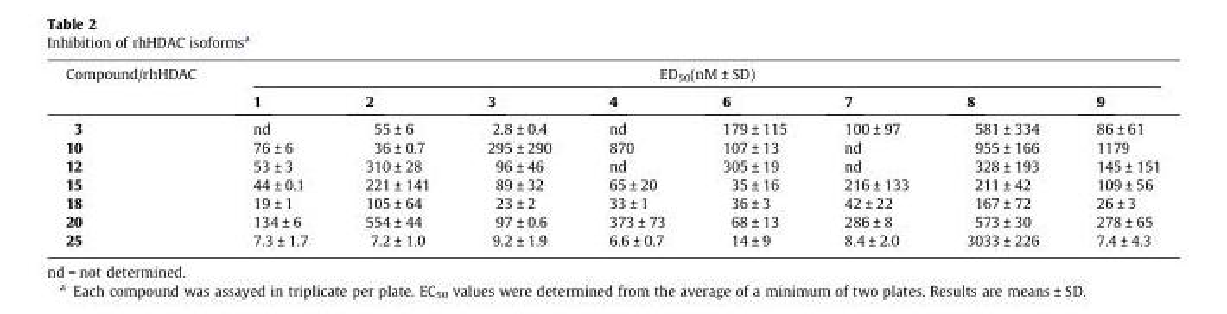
<table><thead><tr><td rowspan="2">Compound/rhHDAC</td><td colspan="8">ED<sub>50</sub>(nM ± SD)</td></tr><tr><td>1</td><td>2</td><td>3</td><td>4</td><td>6</td><td>7</td><td>8</td><td>9</td></tr></thead><tbody><tr><td>3</td><td>nd</td><td>55 ± 6</td><td>2.8 ± 0.4</td><td>nd</td><td>179 ± 115</td><td>100 ± 97</td><td>581 ± 334</td><td>86 ± 61</td></tr><tr><td>10</td><td>76 ± 6</td><td>36 ± 0.7</td><td>295 ± 290</td><td>870</td><td>107 ± 13</td><td>nd</td><td>955 ± 166</td><td>1179</td></tr><tr><td>12</td><td>53 ± 3</td><td>310 ± 28</td><td>96 ± 46</td><td>nd</td><td>305 ± 19</td><td>nd</td><td>328 ± 193</td><td>145 ± 151</td></tr><tr><td>15</td><td>44 ± 0.1</td><td>221 ± 141</td><td>89 ± 32</td><td>65 ± 20</td><td>35 ± 16</td><td>216 ± 133</td><td>211 ± 42</td><td>109 ± 56</td></tr><tr><td>18</td><td>19 ± 1</td><td>105 ± 64</td><td>23 ± 2</td><td>33 ± 1</td><td>36 ± 3</td><td>42 ± 22</td><td>167 ± 72</td><td>26 ± 3</td></tr><tr><td>20</td><td>134 ± 6</td><td>554 ± 44</td><td>97 ± 0.6</td><td>373 ± 73</td><td>68 ± 13</td><td>286 ± 8</td><td>573 ± 30</td><td>278 ± 65</td></tr><tr><td>25</td><td>7.3 ± 1.7</td><td>7.2 ± 1.0</td><td>9.2 ± 1.9</td><td>6.6 ± 0.7</td><td>14 ± 9</td><td>8.4 ± 2.0</td><td>3033 ± 226</td><td>7.4 ± 4.3</td></tr></tbody></table>